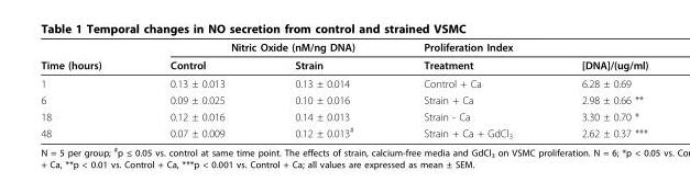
<table><thead><tr><td rowspan="2">Time (hours)</td><td colspan="2">Nitric Oxide (nM/ng DNA)</td><td rowspan="2">Proliferation Index Treatment</td><td rowspan="2">[DNA]/(ug/ml)</td></tr><tr><td>Control</td><td>Strain</td></tr></thead><tbody><tr><td>1</td><td>0.13 ± 0.013</td><td>0.13 ± 0.014</td><td>Control + Ca</td><td>6.28 ± 0.69</td></tr><tr><td>6</td><td>0.09 ± 0.025</td><td>0.10 ± 0.016</td><td>Strain + Ca</td><td>2.98 ± 0.66 **</td></tr><tr><td>18</td><td>0.12 ± 0.016</td><td>0.14 ± 0.013</td><td>Strain - Ca</td><td>3.30 ± 0.70 *</td></tr><tr><td>48</td><td>0.07 ± 0.009</td><td>0.12 ± 0.013<sup>#</sup></td><td>Strain + Ca + GdCl<sub>3</sub></td><td>2.62 ± 0.37 ***</td></tr></tbody></table>